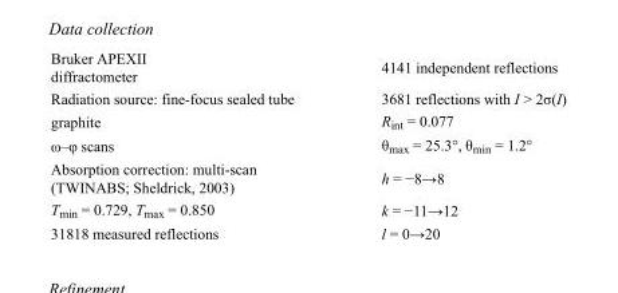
<table><tbody><tr><td>Bruker APEXII diffractometer</td><td>4141 independent reflections</td></tr><tr><td>Radiation source: fine-focus sealed tube</td><td>3681 reflections with I &gt; 2σ(I)</td></tr><tr><td>graphite</td><td>R<sub>int</sub> = 0.077</td></tr><tr><td>ω–φ scans</td><td>θ<sub>max</sub> = 25.3°, θ<sub>min</sub> = 1.2°</td></tr><tr><td>Absorption correction: multi-scan (TWINABS; Sheldrick, 2003)</td><td>h = −8→8</td></tr><tr><td>T<sub>min</sub> = 0.729, T<sub>max</sub> = 0.850</td><td>k = −11→12</td></tr><tr><td>31818 measured reflections</td><td>l = 0→20</td></tr></tbody></table>